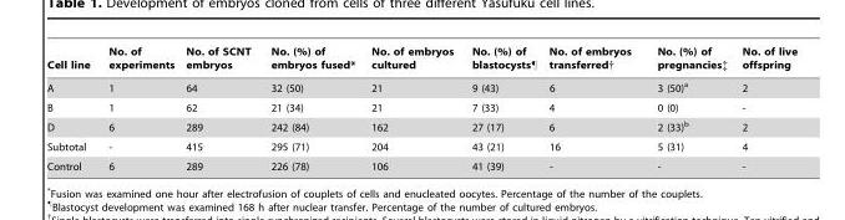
<table><thead><tr><td>Cell line</td><td>No. of experiments</td><td>No. of SCNT embryos</td><td>No. (%) of embryos fused*</td><td>No. of embryos cultured</td><td>No. (%) of blastocysts¶</td><td>No. of embryos transferred†</td><td>No. (%) of pregnancies‡</td><td>No. of live offspring</td></tr></thead><tbody><tr><td>A</td><td>1</td><td>64</td><td>32 (50)</td><td>21</td><td>9 (43)</td><td>6</td><td>3 (50)<sup>a</sup></td><td>2</td></tr><tr><td>B</td><td>1</td><td>62</td><td>21 (34)</td><td>21</td><td>7 (33)</td><td>4</td><td>0 (0)</td><td>-</td></tr><tr><td>D</td><td>6</td><td>289</td><td>242 (84)</td><td>162</td><td>27 (17)</td><td>6</td><td>2 (33)<sup>b</sup></td><td>2</td></tr><tr><td>Subtotal</td><td>-</td><td>415</td><td>295 (71)</td><td>204</td><td>43 (21)</td><td>16</td><td>5 (31)</td><td>4</td></tr><tr><td>Control</td><td>6</td><td>289</td><td>226 (78)</td><td>106</td><td>41 (39)</td><td>-</td><td>-</td><td>-</td></tr></tbody></table>